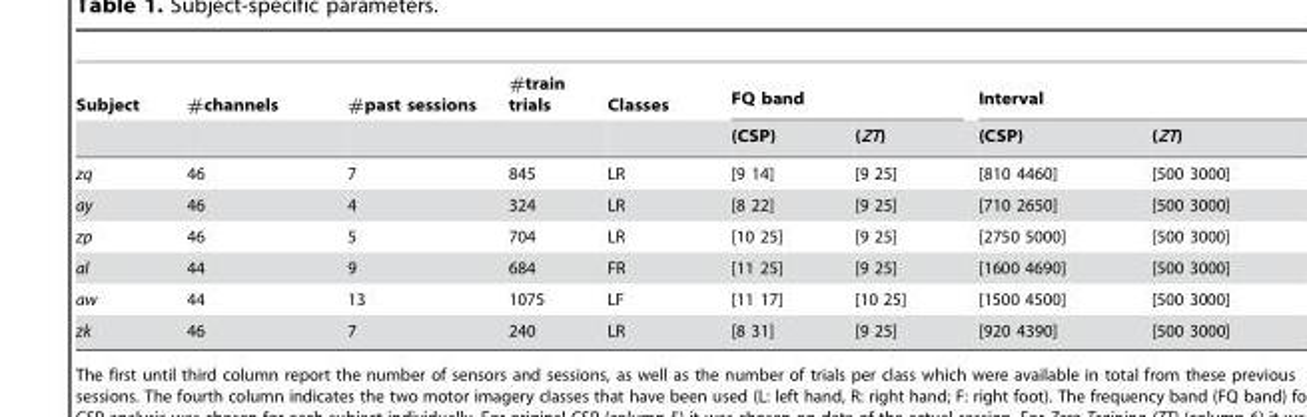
<table><thead><tr><td rowspan="2">Subject</td><td rowspan="2">#channels</td><td rowspan="2">#past sessions</td><td rowspan="2">#train trials</td><td rowspan="2">Classes</td><td colspan="2">FQ band</td><td colspan="2">Interval</td></tr><tr><td>(CSP)</td><td>(ZT)</td><td>(CSP)</td><td>(ZT)</td></tr></thead><tbody><tr><td>zq</td><td>46</td><td>7</td><td>845</td><td>LR</td><td>[9 14]</td><td>[9 25]</td><td>[810 4460]</td><td>[500 3000]</td></tr><tr><td>ay</td><td>46</td><td>4</td><td>324</td><td>LR</td><td>[8 22]</td><td>[9 25]</td><td>[710 2650]</td><td>[500 3000]</td></tr><tr><td>zp</td><td>46</td><td>5</td><td>704</td><td>LR</td><td>[10 25]</td><td>[9 25]</td><td>[2750 5000]</td><td>[500 3000]</td></tr><tr><td>al</td><td>44</td><td>9</td><td>684</td><td>FR</td><td>[11 25]</td><td>[9 25]</td><td>[1600 4690]</td><td>[500 3000]</td></tr><tr><td>aw</td><td>44</td><td>13</td><td>1075</td><td>LF</td><td>[11 17]</td><td>[10 25]</td><td>[1500 4500]</td><td>[500 3000]</td></tr><tr><td>zk</td><td>46</td><td>7</td><td>240</td><td>LR</td><td>[8 31]</td><td>[9 25]</td><td>[920 4390]</td><td>[500 3000]</td></tr></tbody></table>